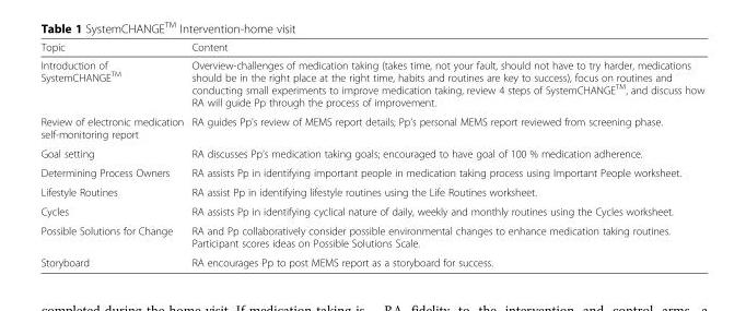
<table><thead><tr><td>Topic</td><td>Content</td></tr></thead><tbody><tr><td>Introduction of SystemCHANGE<sup>TM</sup></td><td>Overview-challenges of medication taking (takes time, not your fault, should not have to try harder, medications should be in the right place at the right time, habits and routines are key to success), focus on routines and conducting small experiments to improve medication taking, review 4 steps of SystemCHANGE<sup>TM</sup>, and discuss how RA will guide Pp through the process of improvement.</td></tr><tr><td>Review of electronic medication self-monitoring report</td><td>RA guides Pp’s review of MEMS report details; Pp’s personal MEMS report reviewed from screening phase.</td></tr><tr><td>Goal setting</td><td>RA discusses Pp’s medication taking goals; encouraged to have goal of 100 % medication adherence.</td></tr><tr><td>Determining Process Owners</td><td>RA assists Pp in identifying important people in medication taking process using Important People worksheet.</td></tr><tr><td>Lifestyle Routines</td><td>RA assist Pp in identifying lifestyle routines using the Life Routines worksheet.</td></tr><tr><td>Cycles</td><td>RA assists Pp in identifying cyclical nature of daily, weekly and monthly routines using the Cycles worksheet.</td></tr><tr><td>Possible Solutions for Change</td><td>RA and Pp collaboratively consider possible environmental changes to enhance medication taking routines. Participant scores ideas on Possible Solutions Scale.</td></tr><tr><td>Storyboard</td><td>RA encourages Pp to post MEMS report as a storyboard for success.</td></tr></tbody></table>